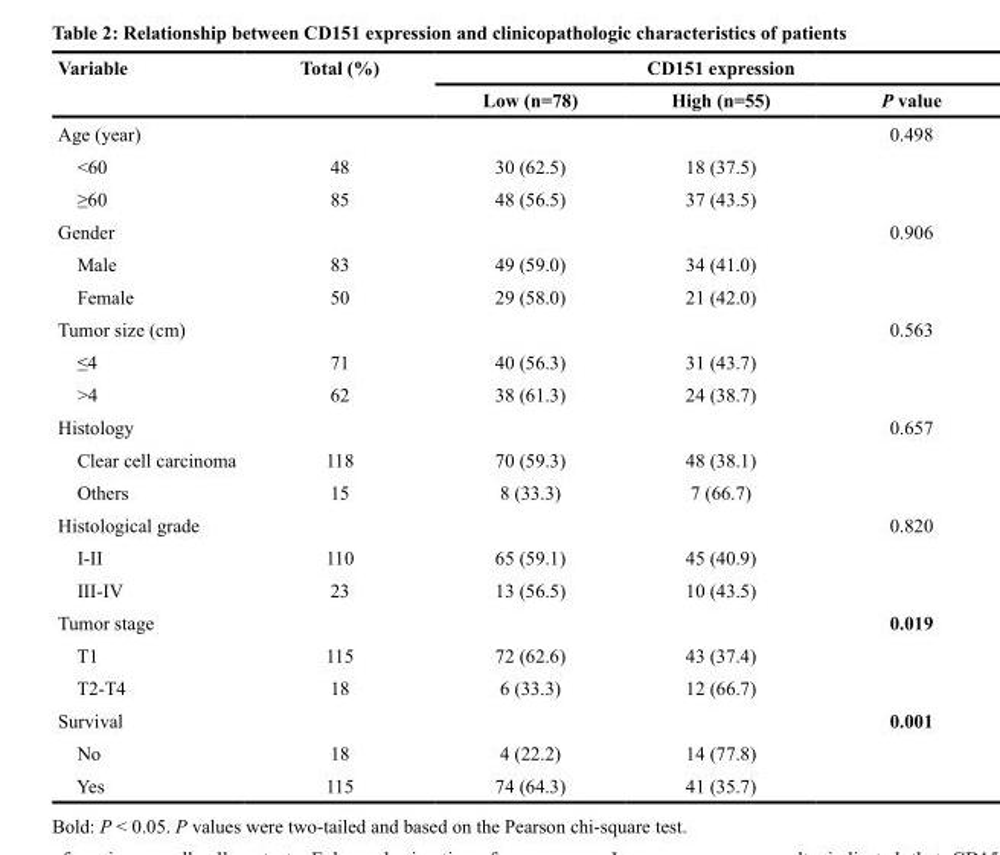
<table><thead><tr><td rowspan="2">Variable</td><td rowspan="2">Total (%)</td><td colspan="3">CD151 expression</td></tr><tr><td>Low (n=78)</td><td>High (n=55)</td><td>P value</td></tr></thead><tbody><tr><td>Age (year)</td><td></td><td></td><td></td><td>0.498</td></tr><tr><td>&lt;60</td><td>48</td><td>30 (62.5)</td><td>18 (37.5)</td><td></td></tr><tr><td>≥60</td><td>85</td><td>48 (56.5)</td><td>37 (43.5)</td><td></td></tr><tr><td>Gender</td><td></td><td></td><td></td><td>0.906</td></tr><tr><td>Male</td><td>83</td><td>49 (59.0)</td><td>34 (41.0)</td><td></td></tr><tr><td>Female</td><td>50</td><td>29 (58.0)</td><td>21 (42.0)</td><td></td></tr><tr><td>Tumor size (cm)</td><td></td><td></td><td></td><td>0.563</td></tr><tr><td>≤4</td><td>71</td><td>40 (56.3)</td><td>31 (43.7)</td><td></td></tr><tr><td>&gt;4</td><td>62</td><td>38 (61.3)</td><td>24 (38.7)</td><td></td></tr><tr><td>Histology</td><td></td><td></td><td></td><td>0.657</td></tr><tr><td>Clear cell carcinoma</td><td>118</td><td>70 (59.3)</td><td>48 (38.1)</td><td></td></tr><tr><td>Others</td><td>15</td><td>8 (33.3)</td><td>7 (66.7)</td><td></td></tr><tr><td>Histological grade</td><td></td><td></td><td></td><td>0.820</td></tr><tr><td>I-II</td><td>110</td><td>65 (59.1)</td><td>45 (40.9)</td><td></td></tr><tr><td>III-IV</td><td>23</td><td>13 (56.5)</td><td>10 (43.5)</td><td></td></tr><tr><td>Tumor stage</td><td></td><td></td><td></td><td>0.019</td></tr><tr><td>T1</td><td>115</td><td>72 (62.6)</td><td>43 (37.4)</td><td></td></tr><tr><td>T2-T4</td><td>18</td><td>6 (33.3)</td><td>12 (66.7)</td><td></td></tr><tr><td>Survival</td><td></td><td></td><td></td><td>0.001</td></tr><tr><td>No</td><td>18</td><td>4 (22.2)</td><td>14 (77.8)</td><td></td></tr><tr><td>Yes</td><td>115</td><td>74 (64.3)</td><td>41 (35.7)</td><td></td></tr></tbody></table>